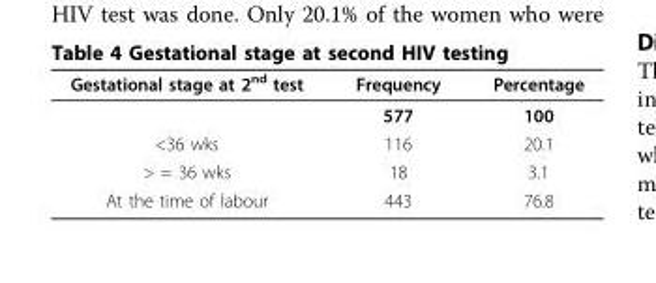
<table><thead><tr><td>Gestational stage at 2<sup>nd</sup> test</td><td>Frequency</td><td>Percentage</td></tr></thead><tbody><tr><td></td><td>577</td><td>100</td></tr><tr><td>&lt;36 wks</td><td>116</td><td>20.1</td></tr><tr><td>&gt; = 36 wks</td><td>18</td><td>3.1</td></tr><tr><td>At the time of labour</td><td>443</td><td>76.8</td></tr></tbody></table>